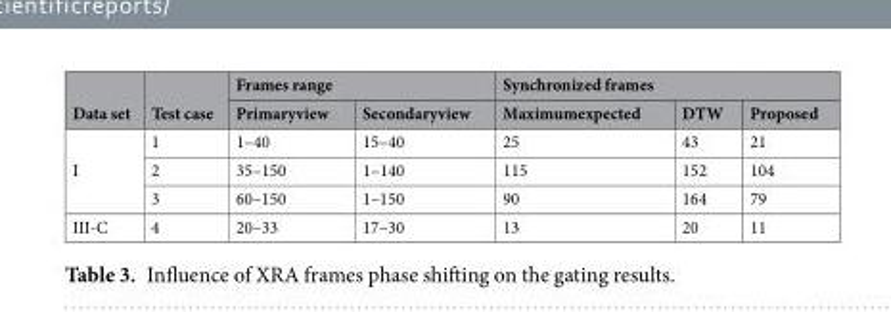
<table><thead><tr><td rowspan="2">Data set</td><td rowspan="2">Test case</td><td colspan="2">Frames range</td><td colspan="3">Synchronized frames</td></tr><tr><td>Primaryview</td><td>Secondaryview</td><td>Maximumexpected</td><td>DTW</td><td>Proposed</td></tr></thead><tbody><tr><td rowspan="3">I</td><td>1</td><td>1–40</td><td>15–40</td><td>25</td><td>43</td><td>21</td></tr><tr><td>2</td><td>35–150</td><td>1–140</td><td>115</td><td>152</td><td>104</td></tr><tr><td>3</td><td>60–150</td><td>1–150</td><td>90</td><td>164</td><td>79</td></tr><tr><td>III-C</td><td>4</td><td>20–33</td><td>17–30</td><td>13</td><td>20</td><td>11</td></tr></tbody></table>